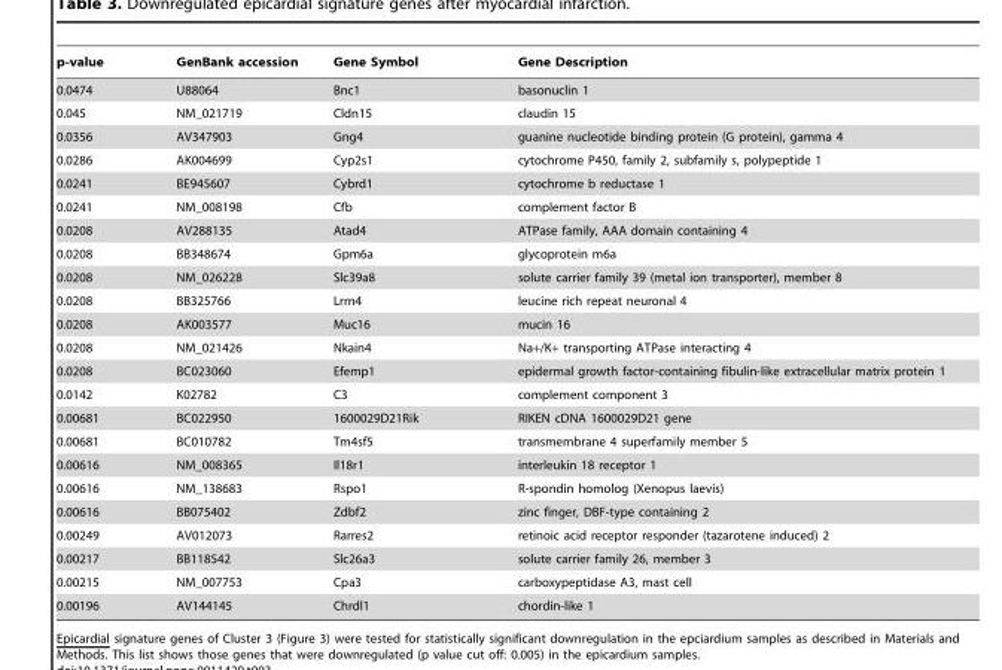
<table><thead><tr><td>p-value</td><td>GenBank accession</td><td>Gene Symbol</td><td>Gene Description</td></tr></thead><tbody><tr><td>0.0474</td><td>U88064</td><td>Bnc1</td><td>basonuclin 1</td></tr><tr><td>0.045</td><td>NM_021719</td><td>Cldn15</td><td>claudin 15</td></tr><tr><td>0.0356</td><td>AV347903</td><td>Gng4</td><td>guanine nucleotide binding protein (G protein), gamma 4</td></tr><tr><td>0.0286</td><td>AK004699</td><td>Cyp2s1</td><td>cytochrome P450, family 2, subfamily s, polypeptide 1</td></tr><tr><td>0.0241</td><td>BE945607</td><td>Cybrd1</td><td>cytochrome b reductase 1</td></tr><tr><td>0.0241</td><td>NM_008198</td><td>Cfb</td><td>complement factor B</td></tr><tr><td>0.0208</td><td>AV288135</td><td>Atad4</td><td>ATPase family, AAA domain containing 4</td></tr><tr><td>0.0208</td><td>BB348674</td><td>Gpm6a</td><td>glycoprotein m6a</td></tr><tr><td>0.0208</td><td>NM_026228</td><td>Slc39a8</td><td>solute carrier family 39 (metal ion transporter), member 8</td></tr><tr><td>0.0208</td><td>BB325766</td><td>Lrrn4</td><td>leucine rich repeat neuronal 4</td></tr><tr><td>0.0208</td><td>AK003577</td><td>Muc16</td><td>mucin 16</td></tr><tr><td>0.0208</td><td>NM_021426</td><td>Nkain4</td><td>Na+/K+ transporting ATPase interacting 4</td></tr><tr><td>0.0208</td><td>BC023060</td><td>Efemp1</td><td>epidermal growth factor-containing fibulin-like extracellular matrix protein 1</td></tr><tr><td>0.0142</td><td>K02782</td><td>C3</td><td>complement component 3</td></tr><tr><td>0.00681</td><td>BC022950</td><td>1600029D21Rik</td><td>RIKEN cDNA 1600029D21 gene</td></tr><tr><td>0.00681</td><td>BC010782</td><td>Tm4sf5</td><td>transmembrane 4 superfamily member 5</td></tr><tr><td>0.00616</td><td>NM_008365</td><td>Il18r1</td><td>interleukin 18 receptor 1</td></tr><tr><td>0.00616</td><td>NM_138683</td><td>Rspo1</td><td>R-spondin homolog (Xenopus laevis)</td></tr><tr><td>0.00616</td><td>BB075402</td><td>Zdbf2</td><td>zinc finger, DBF-type containing 2</td></tr><tr><td>0.00249</td><td>AV012073</td><td>Rarres2</td><td>retinoic acid receptor responder (tazarotene induced) 2</td></tr><tr><td>0.00217</td><td>BB118542</td><td>Slc26a3</td><td>solute carrier family 26, member 3</td></tr><tr><td>0.00215</td><td>NM_007753</td><td>Cpa3</td><td>carboxypeptidase A3, mast cell</td></tr><tr><td>0.00196</td><td>AV144145</td><td>Chrdl1</td><td>chordin-like 1</td></tr></tbody></table>